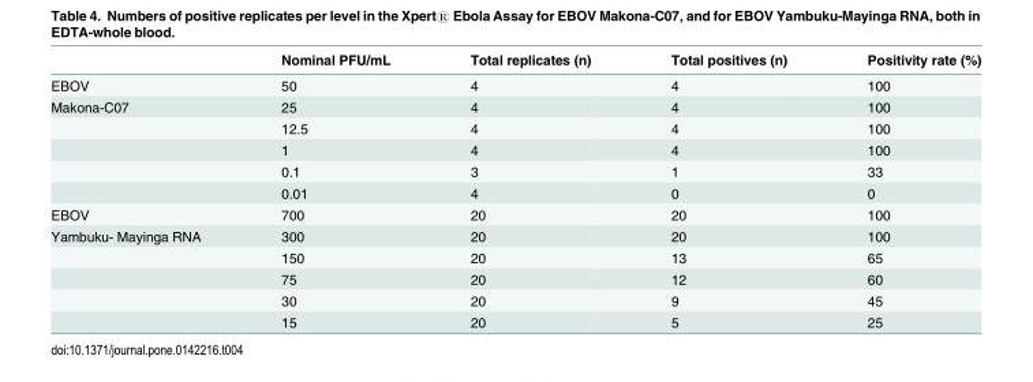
<table><thead><tr><td></td><td>Nominal PFU/mL</td><td>Total replicates (n)</td><td>Total positives (n)</td><td>Positivity rate (%)</td></tr></thead><tbody><tr><td>EBOV</td><td>50</td><td>4</td><td>4</td><td>100</td></tr><tr><td rowspan="5">Makona-C07</td><td>25</td><td>4</td><td>4</td><td>100</td></tr><tr><td>12.5</td><td>4</td><td>4</td><td>100</td></tr><tr><td>1</td><td>4</td><td>4</td><td>100</td></tr><tr><td>0.1</td><td>3</td><td>1</td><td>33</td></tr><tr><td>0.01</td><td>4</td><td>0</td><td>0</td></tr><tr><td>EBOV</td><td>700</td><td>20</td><td>20</td><td>100</td></tr><tr><td rowspan="5">Yambuku- Mayinga RNA</td><td>300</td><td>20</td><td>20</td><td>100</td></tr><tr><td>150</td><td>20</td><td>13</td><td>65</td></tr><tr><td>75</td><td>20</td><td>12</td><td>60</td></tr><tr><td>30</td><td>20</td><td>9</td><td>45</td></tr><tr><td>15</td><td>20</td><td>5</td><td>25</td></tr></tbody></table>